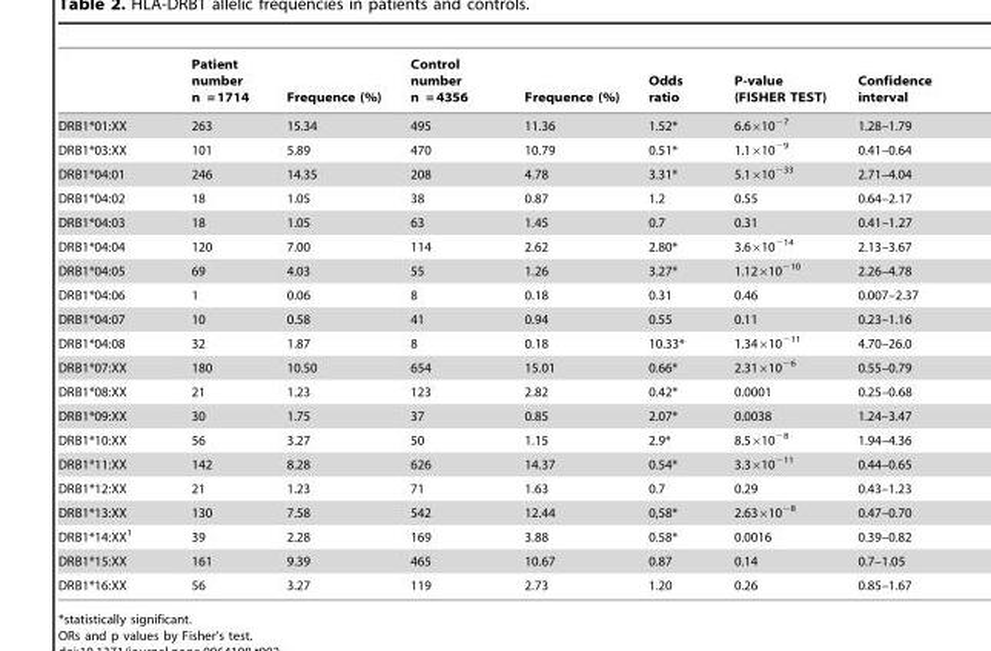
<table><thead><tr><td></td><td>Patient number n = 1714</td><td>Frequence (%)</td><td>Control number n = 4356</td><td>Frequence (%)</td><td>Odds ratio</td><td>P-value (FISHER TEST)</td><td>Confidence interval</td></tr></thead><tbody><tr><td>DRB1*01:XX</td><td>263</td><td>15.34</td><td>495</td><td>11.36</td><td>1.52*</td><td>6.6×10<sup>−7</sup></td><td>1.28–1.79</td></tr><tr><td>DRB1*03:XX</td><td>101</td><td>5.89</td><td>470</td><td>10.79</td><td>0.51*</td><td>1.1×10<sup>−9</sup></td><td>0.41–0.64</td></tr><tr><td>DRB1*04:01</td><td>246</td><td>14.35</td><td>208</td><td>4.78</td><td>3.31*</td><td>5.1×10<sup>−33</sup></td><td>2.71–4.04</td></tr><tr><td>DRB1*04:02</td><td>18</td><td>1.05</td><td>38</td><td>0.87</td><td>1.2</td><td>0.55</td><td>0.64–2.17</td></tr><tr><td>DRB1*04:03</td><td>18</td><td>1.05</td><td>63</td><td>1.45</td><td>0.7</td><td>0.31</td><td>0.41–1.27</td></tr><tr><td>DRB1*04:04</td><td>120</td><td>7.00</td><td>114</td><td>2.62</td><td>2.80*</td><td>3.6×10<sup>−14</sup></td><td>2.13–3.67</td></tr><tr><td>DRB1*04:05</td><td>69</td><td>4.03</td><td>55</td><td>1.26</td><td>3.27*</td><td>1.12×10<sup>−10</sup></td><td>2.26–4.78</td></tr><tr><td>DRB1*04:06</td><td>1</td><td>0.06</td><td>8</td><td>0.18</td><td>0.31</td><td>0.46</td><td>0.007–2.37</td></tr><tr><td>DRB1*04:07</td><td>10</td><td>0.58</td><td>41</td><td>0.94</td><td>0.55</td><td>0.11</td><td>0.23–1.16</td></tr><tr><td>DRB1*04:08</td><td>32</td><td>1.87</td><td>8</td><td>0.18</td><td>10.33*</td><td>1.34×10<sup>−11</sup></td><td>4.70–26.0</td></tr><tr><td>DRB1*07:XX</td><td>180</td><td>10.50</td><td>654</td><td>15.01</td><td>0.66*</td><td>2.31×10<sup>−6</sup></td><td>0.55–0.79</td></tr><tr><td>DRB1*08:XX</td><td>21</td><td>1.23</td><td>123</td><td>2.82</td><td>0.42*</td><td>0.0001</td><td>0.25–0.68</td></tr><tr><td>DRB1*09:XX</td><td>30</td><td>1.75</td><td>37</td><td>0.85</td><td>2.07*</td><td>0.0038</td><td>1.24–3.47</td></tr><tr><td>DRB1*10:XX</td><td>56</td><td>3.27</td><td>50</td><td>1.15</td><td>2.9*</td><td>8.5×10<sup>−8</sup></td><td>1.94–4.36</td></tr><tr><td>DRB1*11:XX</td><td>142</td><td>8.28</td><td>626</td><td>14.37</td><td>0.54*</td><td>3.3×10<sup>−11</sup></td><td>0.44–0.65</td></tr><tr><td>DRB1*12:XX</td><td>21</td><td>1.23</td><td>71</td><td>1.63</td><td>0.7</td><td>0.29</td><td>0.43–1.23</td></tr><tr><td>DRB1*13:XX</td><td>130</td><td>7.58</td><td>542</td><td>12.44</td><td>0,58*</td><td>2.63×10<sup>−8</sup></td><td>0.47–0.70</td></tr><tr><td>DRB1*14:XX<sup>1</sup></td><td>39</td><td>2.28</td><td>169</td><td>3.88</td><td>0.58*</td><td>0.0016</td><td>0.39–0.82</td></tr><tr><td>DRB1*15:XX</td><td>161</td><td>9.39</td><td>465</td><td>10.67</td><td>0.87</td><td>0.14</td><td>0.7–1.05</td></tr><tr><td>DRB1*16:XX</td><td>56</td><td>3.27</td><td>119</td><td>2.73</td><td>1.20</td><td>0.26</td><td>0.85–1.67</td></tr></tbody></table>